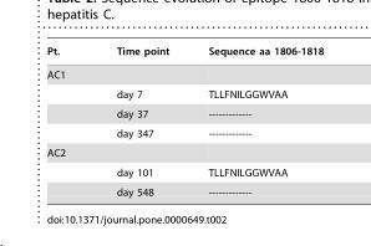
<table><thead><tr><td>Pt.</td><td>Time point</td><td>Sequence aa 1806-1818</td></tr></thead><tbody><tr><td colspan="3">AC1</td></tr><tr><td></td><td>day 7</td><td>TLLFNILGGWVAA</td></tr><tr><td></td><td>day 37</td><td>-------------</td></tr><tr><td></td><td>day 347</td><td>-------------</td></tr><tr><td colspan="3">AC2</td></tr><tr><td></td><td>day 101</td><td>TLLFNILGGWVAA</td></tr><tr><td></td><td>day 548</td><td>-------------</td></tr></tbody></table>